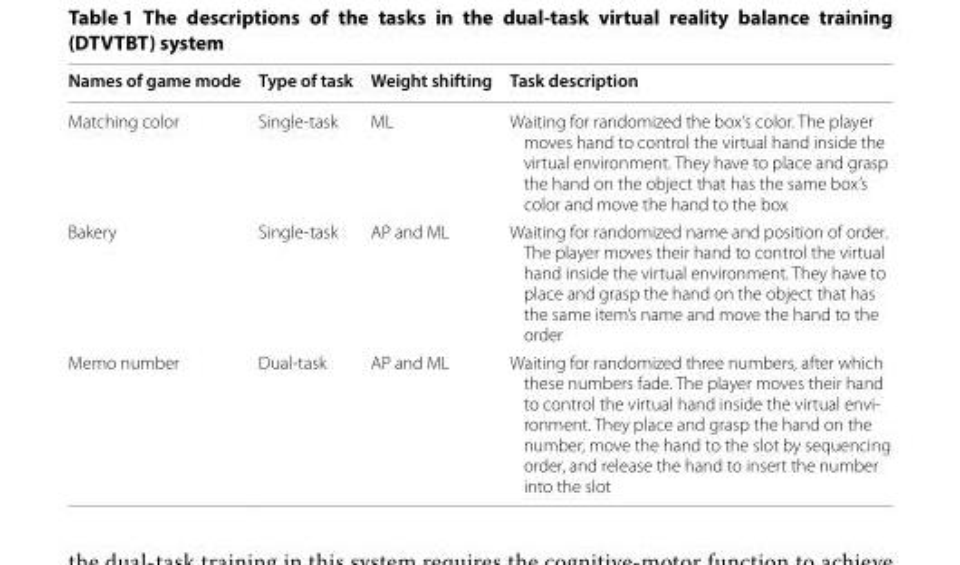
<table><thead><tr><td>Names of game mode</td><td>Type of task</td><td>Weight shifting</td><td>Task description</td></tr></thead><tbody><tr><td>Matching color</td><td>Single-task</td><td>ML</td><td>Waiting for randomized the box’s color. The player moves hand to control the virtual hand inside the virtual environment. They have to place and grasp the hand on the object that has the same box’s color and move the hand to the box</td></tr><tr><td>Bakery</td><td>Single-task</td><td>AP and ML</td><td>Waiting for randomized name and position of order. The player moves their hand to control the virtual hand inside the virtual environment. They have to place and grasp the hand on the object that has the same item’s name and move the hand to the order</td></tr><tr><td>Memo number</td><td>Dual-task</td><td>AP and ML</td><td>Waiting for randomized three numbers, after which these numbers fade. The player moves their hand to control the virtual hand inside the virtual envi- ronment. They place and grasp the hand on the number, move the hand to the slot by sequencing order, and release the hand to insert the number into the slot</td></tr></tbody></table>